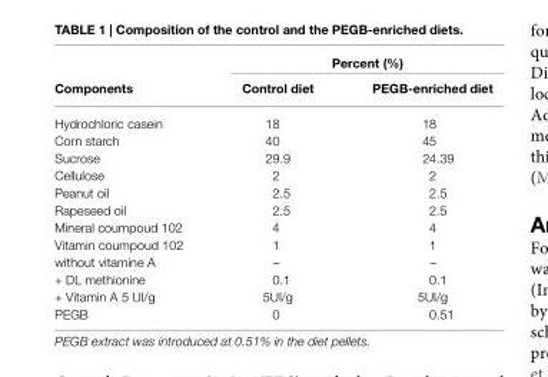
<table><thead><tr><td rowspan="2">Components</td><td colspan="2">Percent (%)</td></tr><tr><td>Control diet</td><td>PEGB-enriched diet</td></tr></thead><tbody><tr><td>Hydrochloric casein</td><td>18</td><td>18</td></tr><tr><td>Corn starch</td><td>40</td><td>45</td></tr><tr><td>Sucrose</td><td>29.9</td><td>24.39</td></tr><tr><td>Cellulose</td><td>2</td><td>2</td></tr><tr><td>Peanut oil</td><td>2.5</td><td>2.5</td></tr><tr><td>Rapeseed oil</td><td>2.5</td><td>2.5</td></tr><tr><td>Mineral coumpoud 102</td><td>4</td><td>4</td></tr><tr><td>Vitamin coumpoud 102</td><td>1</td><td>1</td></tr><tr><td>without vitamine A</td><td>–</td><td>–</td></tr><tr><td>+ DL methionine</td><td>0.1</td><td>0.1</td></tr><tr><td>+ Vitamin A 5 UI/g</td><td>5UI/g</td><td>5UI/g</td></tr><tr><td>PEGB</td><td>0</td><td>0.51</td></tr></tbody></table>